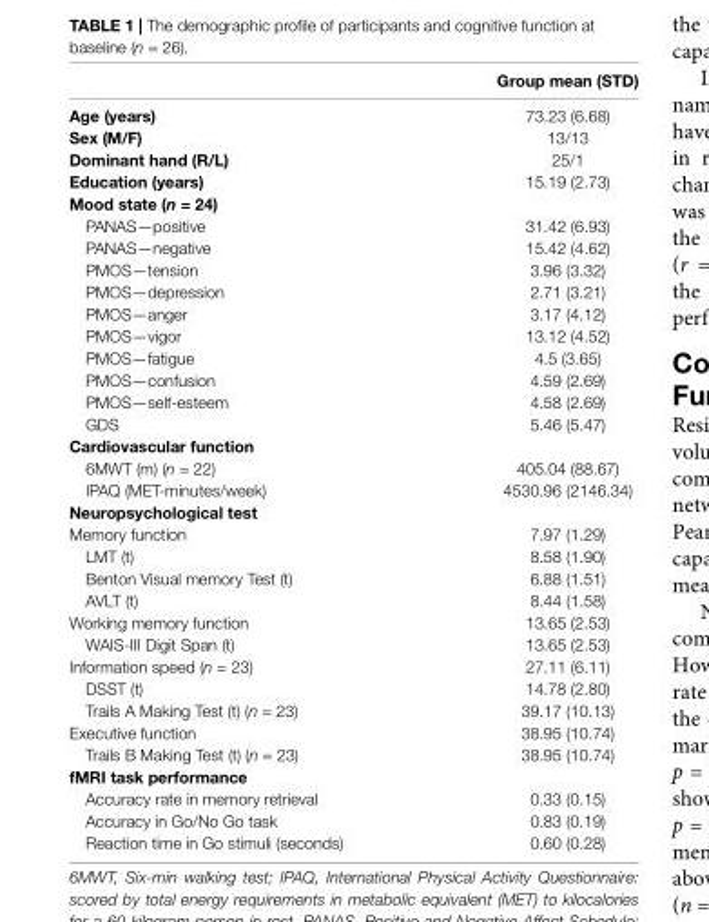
<table><thead><tr><td></td><td>Group mean (STD)</td></tr></thead><tbody><tr><td>Age (years)</td><td>73.23 (6.68)</td></tr><tr><td>Sex (M/F)</td><td>13/13</td></tr><tr><td>Dominant hand (R/L)</td><td>25/1</td></tr><tr><td>Education (years)</td><td>15.19 (2.73)</td></tr><tr><td colspan="2">Mood state (n = 24)</td></tr><tr><td>PANAS—positive</td><td>31.42 (6.93)</td></tr><tr><td>PANAS—negative</td><td>15.42 (4.62)</td></tr><tr><td>PMOS—tension</td><td>3.96 (3.32)</td></tr><tr><td>PMOS—depression</td><td>2.71 (3.21)</td></tr><tr><td>PMOS—anger</td><td>3.17 (4.12)</td></tr><tr><td>PMOS—vigor</td><td>13.12 (4.52)</td></tr><tr><td>PMOS—fatigue</td><td>4.5 (3.65)</td></tr><tr><td>PMOS—confusion</td><td>4.59 (2.69)</td></tr><tr><td>PMOS—self-esteem</td><td>4.58 (2.69)</td></tr><tr><td>GDS</td><td>5.46 (5.47)</td></tr><tr><td colspan="2">Cardiovascular function</td></tr><tr><td>6MWT (m) (n = 22)</td><td>405.04 (88.67)</td></tr><tr><td>IPAQ (MET-minutes/week)</td><td>4530.96 (2146.34)</td></tr><tr><td colspan="2">Neuropsychological test</td></tr><tr><td>Memory function</td><td>7.97 (1.29)</td></tr><tr><td>LMT (t)</td><td>8.58 (1.90)</td></tr><tr><td>Benton Visual memory Test (t)</td><td>6.88 (1.51)</td></tr><tr><td>AVLT (t)</td><td>8.44 (1.58)</td></tr><tr><td>Working memory function</td><td>13.65 (2.53)</td></tr><tr><td>WAIS-III Digit Span (t)</td><td>13.65 (2.53)</td></tr><tr><td>Information speed (n = 23)</td><td>27.11 (6.11)</td></tr><tr><td>DSST (t)</td><td>14.78 (2.80)</td></tr><tr><td>Trails A Making Test (t) (n = 23)</td><td>39.17 (10.13)</td></tr><tr><td>Executive function</td><td>38.95 (10.74)</td></tr><tr><td>Trails B Making Test (t) (n = 23)</td><td>38.95 (10.74)</td></tr><tr><td colspan="2">fMRI task performance</td></tr><tr><td>Accuracy rate in memory retrieval</td><td>0.33 (0.15)</td></tr><tr><td>Accuracy in Go/No Go task</td><td>0.83 (0.19)</td></tr><tr><td>Reaction time in Go stimuli (seconds)</td><td>0.60 (0.28)</td></tr></tbody></table>